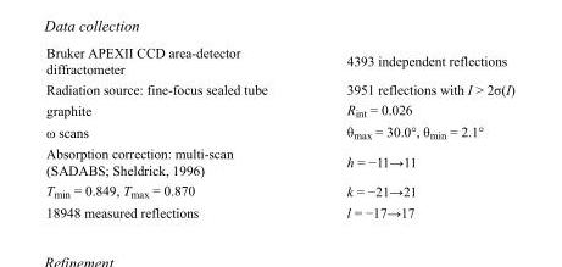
<table><tbody><tr><td>Bruker APEXII CCD area-detector diffractometer</td><td>4393 independent reflections</td></tr><tr><td>Radiation source: fine-focus sealed tube</td><td>3951 reflections with I &gt; 2σ(I)</td></tr><tr><td>graphite</td><td>R<sub>int</sub> = 0.026</td></tr><tr><td>ω scans</td><td>θ<sub>max</sub> = 30.0°, θ<sub>min</sub> = 2.1°</td></tr><tr><td>Absorption correction: multi-scan (SADABS; Sheldrick, 1996)</td><td>h = −11→11</td></tr><tr><td>T<sub>min</sub> = 0.849, T<sub>max</sub> = 0.870</td><td>k = −21→21</td></tr><tr><td>18948 measured reflections</td><td>l = −17→17</td></tr></tbody></table>